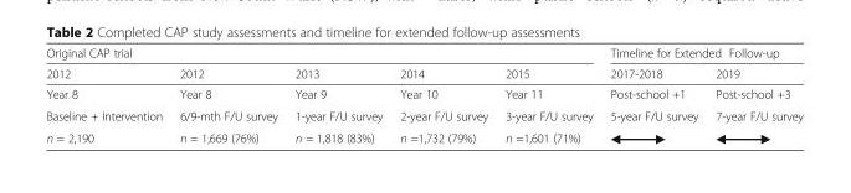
<table><thead><tr><td colspan="5">Original CAP trial</td><td colspan="2">Timeline for Extended Follow-up</td></tr><tr><td>2012</td><td>2012</td><td>2013</td><td>2014</td><td>2015</td><td>2017-2018</td><td>2019</td></tr></thead><tbody><tr><td>Year 8</td><td>Year 8</td><td>Year 9</td><td>Year 10</td><td>Year 11</td><td>Post-school +1</td><td>Post-school +3</td></tr><tr><td>Baseline + Intervention</td><td>6/9-mth F/U survey</td><td>1-year F/U survey</td><td>2-year F/U survey</td><td>3-year F/U survey</td><td>5-year F/U survey</td><td>7-year F/U survey</td></tr><tr><td>n = 2,190</td><td>n = 1,669 (76%)</td><td>n = 1,818 (83%)</td><td>n =1,732 (79%)</td><td>n =1,601 (71%)</td><td></td><td></td></tr></tbody></table>